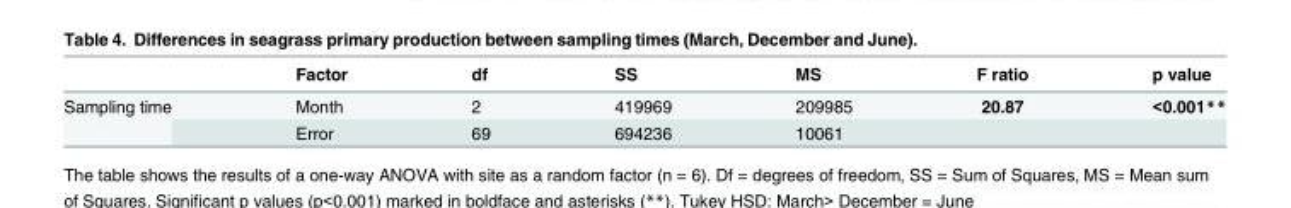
<table><thead><tr><td></td><td>Factor</td><td>df</td><td>SS</td><td>MS</td><td>F ratio</td><td>p value</td></tr></thead><tbody><tr><td rowspan="2">Sampling time</td><td>Month</td><td>2</td><td>419969</td><td>209985</td><td>20.87</td><td>&lt;0.001**</td></tr><tr><td>Error</td><td>69</td><td>694236</td><td>10061</td><td></td><td></td></tr></tbody></table>